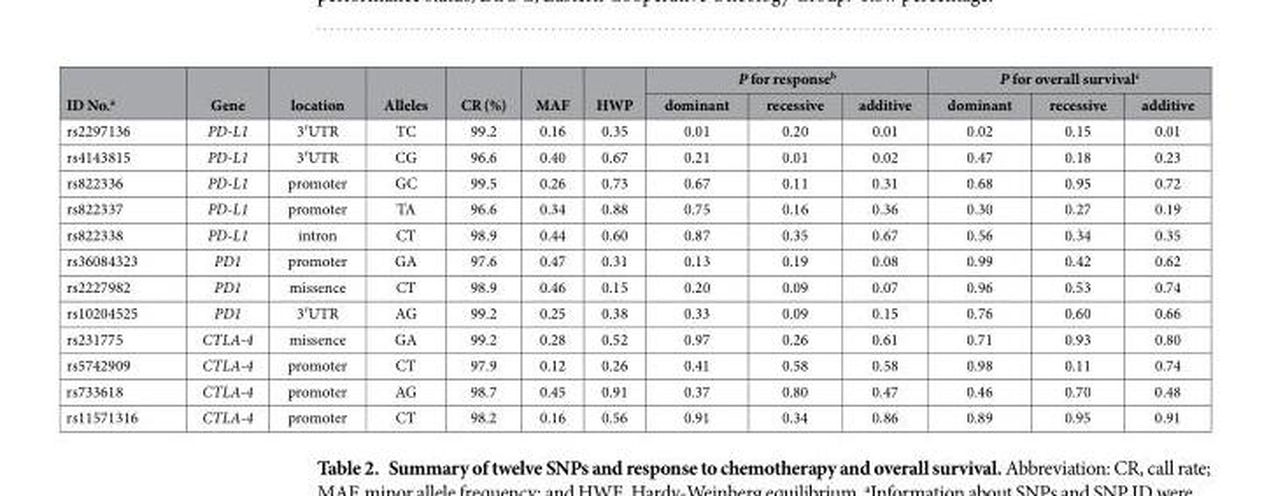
<table><thead><tr><td rowspan="2">ID No.<sup>a</sup></td><td rowspan="2">Gene</td><td rowspan="2">location</td><td rowspan="2">Alleles</td><td rowspan="2">CR (%)</td><td rowspan="2">MAF</td><td rowspan="2">HWP</td><td colspan="3">P for response<sup>b</sup></td><td colspan="3">P for overall survival<sup>c</sup></td></tr><tr><td>dominant</td><td>recessive</td><td>additive</td><td>dominant</td><td>recessive</td><td>additive</td></tr></thead><tbody><tr><td>rs2297136</td><td>PD-L1</td><td>3′ UTR</td><td>TC</td><td>99.2</td><td>0.16</td><td>0.35</td><td>0.01</td><td>0.20</td><td>0.01</td><td>0.02</td><td>0.15</td><td>0.01</td></tr><tr><td>rs4143815</td><td>PD-L1</td><td>3′ UTR</td><td>CG</td><td>96.6</td><td>0.40</td><td>0.67</td><td>0.21</td><td>0.01</td><td>0.02</td><td>0.47</td><td>0.18</td><td>0.23</td></tr><tr><td>rs822336</td><td>PD-L1</td><td>promoter</td><td>GC</td><td>99.5</td><td>0.26</td><td>0.73</td><td>0.67</td><td>0.11</td><td>0.31</td><td>0.68</td><td>0.95</td><td>0.72</td></tr><tr><td>rs822337</td><td>PD-L1</td><td>promoter</td><td>TA</td><td>96.6</td><td>0.34</td><td>0.88</td><td>0.75</td><td>0.16</td><td>0.36</td><td>0.30</td><td>0.27</td><td>0.19</td></tr><tr><td>rs822338</td><td>PD-L1</td><td>intron</td><td>CT</td><td>98.9</td><td>0.44</td><td>0.60</td><td>0.87</td><td>0.35</td><td>0.67</td><td>0.56</td><td>0.34</td><td>0.35</td></tr><tr><td>rs36084323</td><td>PD1</td><td>promoter</td><td>GA</td><td>97.6</td><td>0.47</td><td>0.31</td><td>0.13</td><td>0.19</td><td>0.08</td><td>0.99</td><td>0.42</td><td>0.62</td></tr><tr><td>rs2227982</td><td>PD1</td><td>missence</td><td>CT</td><td>98.9</td><td>0.46</td><td>0.15</td><td>0.20</td><td>0.09</td><td>0.07</td><td>0.96</td><td>0.53</td><td>0.74</td></tr><tr><td>rs10204525</td><td>PD1</td><td>3′ UTR</td><td>AG</td><td>99.2</td><td>0.25</td><td>0.38</td><td>0.33</td><td>0.09</td><td>0.15</td><td>0.76</td><td>0.60</td><td>0.66</td></tr><tr><td>rs231775</td><td>CTLA-4</td><td>missence</td><td>GA</td><td>99.2</td><td>0.28</td><td>0.52</td><td>0.97</td><td>0.26</td><td>0.61</td><td>0.71</td><td>0.93</td><td>0.80</td></tr><tr><td>rs5742909</td><td>CTLA-4</td><td>promoter</td><td>CT</td><td>97.9</td><td>0.12</td><td>0.26</td><td>0.41</td><td>0.58</td><td>0.58</td><td>0.98</td><td>0.11</td><td>0.74</td></tr><tr><td>rs733618</td><td>CTLA-4</td><td>promoter</td><td>AG</td><td>98.7</td><td>0.45</td><td>0.91</td><td>0.37</td><td>0.80</td><td>0.47</td><td>0.46</td><td>0.70</td><td>0.48</td></tr><tr><td>rs11571316</td><td>CTLA-4</td><td>promoter</td><td>CT</td><td>98.2</td><td>0.16</td><td>0.56</td><td>0.91</td><td>0.34</td><td>0.86</td><td>0.89</td><td>0.95</td><td>0.91</td></tr></tbody></table>